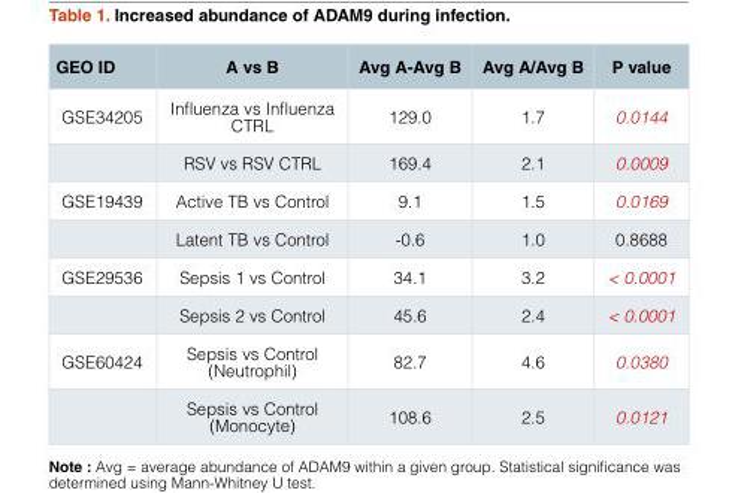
<table><thead><tr><td>GEO ID</td><td>A vs B</td><td>Avg A-Avg B</td><td>Avg A/Avg B</td><td>P value</td></tr></thead><tbody><tr><td rowspan="2">GSE34205</td><td>Influenza vs Influenza CTRL</td><td>129.0</td><td>1.7</td><td>0.0144</td></tr><tr><td>RSV vs RSV CTRL</td><td>169.4</td><td>2.1</td><td>0.0009</td></tr><tr><td rowspan="2">GSE19439</td><td>Active TB vs Control</td><td>9.1</td><td>1.5</td><td>0.0169</td></tr><tr><td>Latent TB vs Control</td><td>-0.6</td><td>1.0</td><td>0.8688</td></tr><tr><td rowspan="2">GSE29536</td><td>Sepsis 1 vs Control</td><td>34.1</td><td>3.2</td><td>&lt; 0.0001</td></tr><tr><td>Sepsis 2 vs Control</td><td>45.6</td><td>2.4</td><td>&lt; 0.0001</td></tr><tr><td rowspan="2">GSE60424</td><td>Sepsis vs Control (Neutrophil)</td><td>82.7</td><td>4.6</td><td>0.0380</td></tr><tr><td>Sepsis vs Control (Monocyte)</td><td>108.6</td><td>2.5</td><td>0.0121</td></tr></tbody></table>